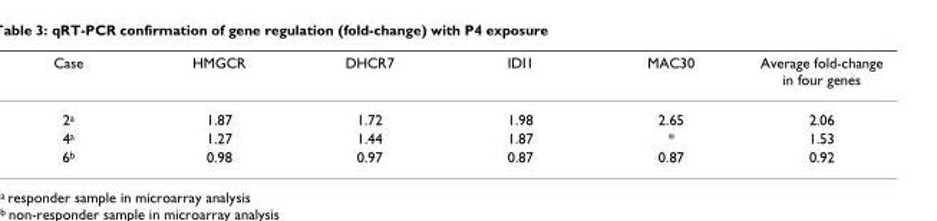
<table><thead><tr><td>Case</td><td>HMGCR</td><td>DHCR7</td><td>IDI1</td><td>MAC30</td><td>Average fold-change in four genes</td></tr></thead><tbody><tr><td>2<sup>a</sup></td><td>1.87</td><td>1.72</td><td>1.98</td><td>2.65</td><td>2.06</td></tr><tr><td>4<sup>a</sup></td><td>1.27</td><td>1.44</td><td>1.87</td><td>*</td><td>1.53</td></tr><tr><td>6<sup>b</sup></td><td>0.98</td><td>0.97</td><td>0.87</td><td>0.87</td><td>0.92</td></tr></tbody></table>